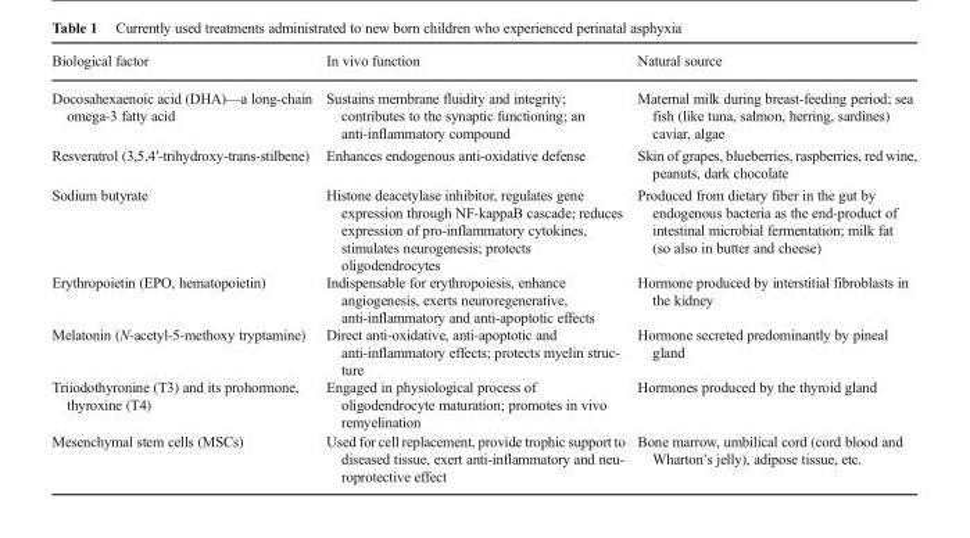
<table><thead><tr><td>Biological factor</td><td>In vivo function</td><td>Natural source</td></tr></thead><tbody><tr><td>Docosahexaenoic acid (DHA)—a long-chain omega-3 fatty acid</td><td>Sustains membrane fluidity and integrity; contributes to the synaptic functioning; an anti-inflammatory compound</td><td>Maternal milk during breast-feeding period; sea fish (like tuna, salmon, herring, sardines) caviar, algae</td></tr><tr><td>Resveratrol (3,5,4′-trihydroxy-trans-stilbene)</td><td>Enhances endogenous anti-oxidative defense</td><td>Skin of grapes, blueberries, raspberries, red wine, peanuts, dark chocolate</td></tr><tr><td>Sodium butyrate</td><td>Histone deacetylase inhibitor, regulates gene expression through NF-kappaB cascade; reduces expression of pro-inflammatory cytokines, stimulates neurogenesis; protects oligodendrocytes</td><td>Produced from dietary fiber in the gut by endogenous bacteria as the end-product of intestinal microbial fermentation; milk fat (so also in butter and cheese)</td></tr><tr><td>Erythropoietin (EPO, hematopoietin)</td><td>Indispensable for erythropoiesis, enhance angiogenesis, exerts neuroregenerative, anti-inflammatory and anti-apoptotic effects</td><td>Hormone produced by interstitial fibroblasts in the kidney</td></tr><tr><td>Melatonin (N-acetyl-5-methoxy tryptamine)</td><td>Direct anti-oxidative, anti-apoptotic and anti-inflammatory effects; protects myelin struc- ture</td><td>Hormone secreted predominantly by pineal gland</td></tr><tr><td>Triiodothyronine (T3) and its prohormone, thyroxine (T4)</td><td>Engaged in physiological process of oligodendrocyte maturation; promotes in vivo remyelination</td><td>Hormones produced by the thyroid gland</td></tr><tr><td>Mesenchymal stem cells (MSCs)</td><td>Used for cell replacement, provide trophic support to diseased tissue, exert anti-inflammatory and neu- roprotective effect</td><td>Bone marrow, umbilical cord (cord blood and Wharton’s jelly), adipose tissue, etc.</td></tr></tbody></table>